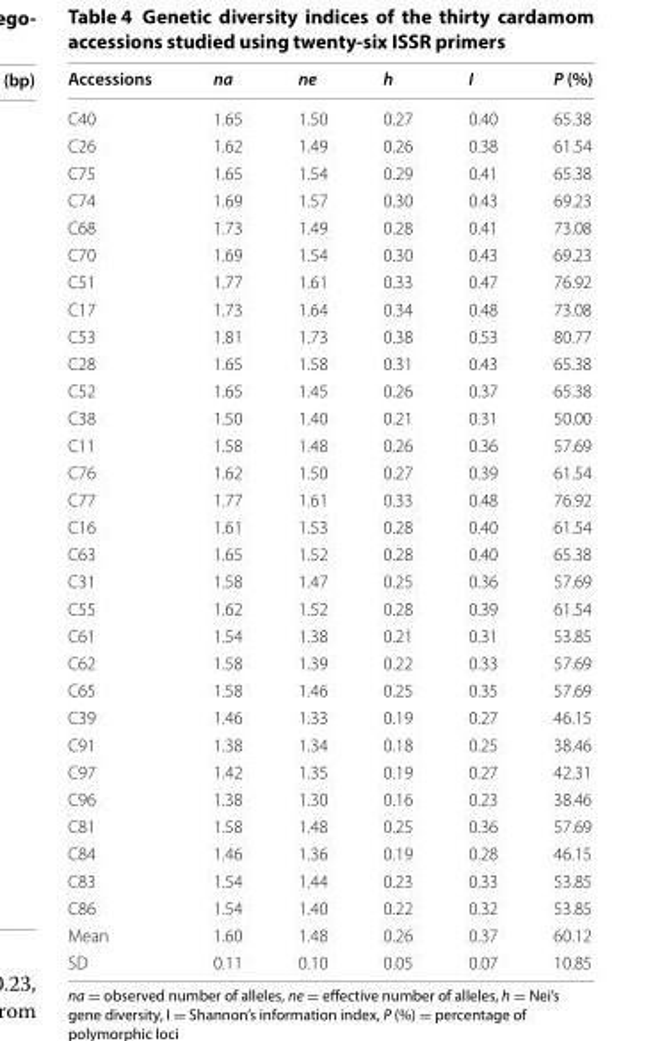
<table><thead><tr><td>Accessions</td><td>na</td><td>ne</td><td>h</td><td>I</td><td>P (%)</td></tr></thead><tbody><tr><td>C40</td><td>1.65</td><td>1.50</td><td>0.27</td><td>0.40</td><td>65.38</td></tr><tr><td>C26</td><td>1.62</td><td>1.49</td><td>0.26</td><td>0.38</td><td>61.54</td></tr><tr><td>C75</td><td>1.65</td><td>1.54</td><td>0.29</td><td>0.41</td><td>65.38</td></tr><tr><td>C74</td><td>1.69</td><td>1.57</td><td>0.30</td><td>0.43</td><td>69.23</td></tr><tr><td>C68</td><td>1.73</td><td>1.49</td><td>0.28</td><td>0.41</td><td>73.08</td></tr><tr><td>C70</td><td>1.69</td><td>1.54</td><td>0.30</td><td>0.43</td><td>69.23</td></tr><tr><td>C51</td><td>1.77</td><td>1.61</td><td>0.33</td><td>0.47</td><td>76.92</td></tr><tr><td>C17</td><td>1.73</td><td>1.64</td><td>0.34</td><td>0.48</td><td>73.08</td></tr><tr><td>C53</td><td>1.81</td><td>1.73</td><td>0.38</td><td>0.53</td><td>80.77</td></tr><tr><td>C28</td><td>1.65</td><td>1.58</td><td>0.31</td><td>0.43</td><td>65.38</td></tr><tr><td>C52</td><td>1.65</td><td>1.45</td><td>0.26</td><td>0.37</td><td>65.38</td></tr><tr><td>C38</td><td>1.50</td><td>1.40</td><td>0.21</td><td>0.31</td><td>50.00</td></tr><tr><td>C11</td><td>1.58</td><td>1.48</td><td>0.26</td><td>0.36</td><td>57.69</td></tr><tr><td>C76</td><td>1.62</td><td>1.50</td><td>0.27</td><td>0.39</td><td>61.54</td></tr><tr><td>C77</td><td>1.77</td><td>1.61</td><td>0.33</td><td>0.48</td><td>76.92</td></tr><tr><td>C16</td><td>1.61</td><td>1.53</td><td>0.28</td><td>0.40</td><td>61.54</td></tr><tr><td>C63</td><td>1.65</td><td>1.52</td><td>0.28</td><td>0.40</td><td>65.38</td></tr><tr><td>C31</td><td>1.58</td><td>1.47</td><td>0.25</td><td>0.36</td><td>57.69</td></tr><tr><td>C55</td><td>1.62</td><td>1.52</td><td>0.28</td><td>0.39</td><td>61.54</td></tr><tr><td>C61</td><td>1.54</td><td>1.38</td><td>0.21</td><td>0.31</td><td>53.85</td></tr><tr><td>C62</td><td>1.58</td><td>1.39</td><td>0.22</td><td>0.33</td><td>57.69</td></tr><tr><td>C65</td><td>1.58</td><td>1.46</td><td>0.25</td><td>0.35</td><td>57.69</td></tr><tr><td>C39</td><td>1.46</td><td>1.33</td><td>0.19</td><td>0.27</td><td>46.15</td></tr><tr><td>C91</td><td>1.38</td><td>1.34</td><td>0.18</td><td>0.25</td><td>38.46</td></tr><tr><td>C97</td><td>1.42</td><td>1.35</td><td>0.19</td><td>0.27</td><td>42.31</td></tr><tr><td>C96</td><td>1.38</td><td>1.30</td><td>0.16</td><td>0.23</td><td>38.46</td></tr><tr><td>C81</td><td>1.58</td><td>1.48</td><td>0.25</td><td>0.36</td><td>57.69</td></tr><tr><td>C84</td><td>1.46</td><td>1.36</td><td>0.19</td><td>0.28</td><td>46.15</td></tr><tr><td>C83</td><td>1.54</td><td>1.44</td><td>0.23</td><td>0.33</td><td>53.85</td></tr><tr><td>C86</td><td>1.54</td><td>1.40</td><td>0.22</td><td>0.32</td><td>53.85</td></tr><tr><td>Mean</td><td>1.60</td><td>1.48</td><td>0.26</td><td>0.37</td><td>60.12</td></tr><tr><td>SD</td><td>0.11</td><td>0.10</td><td>0.05</td><td>0.07</td><td>10.85</td></tr></tbody></table>